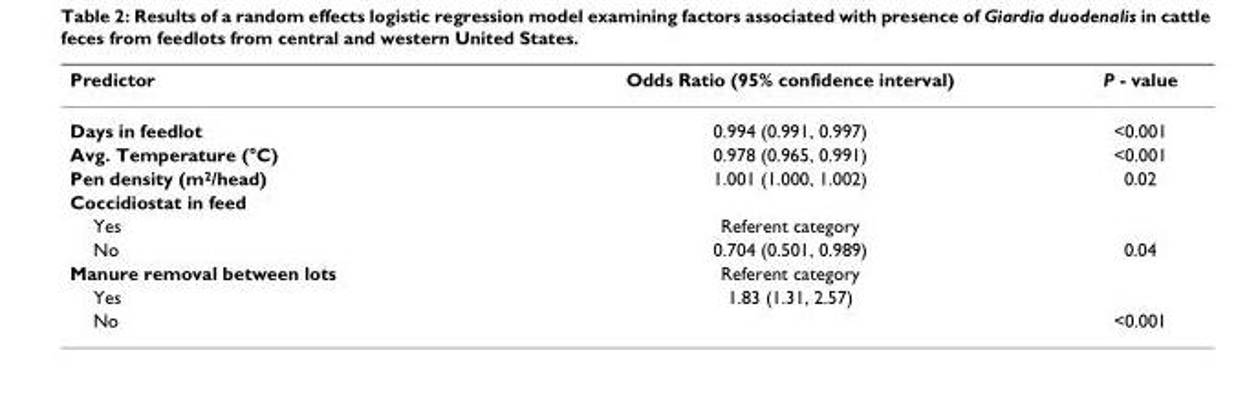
<table><thead><tr><td>Predictor</td><td>Odds Ratio (95% confidence interval)</td><td>P - value</td></tr></thead><tbody><tr><td>Days in feedlot</td><td>0.994 (0.991, 0.997)</td><td>&lt;0.001</td></tr><tr><td>Avg. Temperature (°C)</td><td>0.978 (0.965, 0.991)</td><td>&lt;0.001</td></tr><tr><td>Pen density (m<sup>2</sup>/head)</td><td>1.001 (1.000, 1.002)</td><td>0.02</td></tr><tr><td colspan="3">Coccidiostat in feed</td></tr><tr><td>Yes</td><td>Referent category</td><td></td></tr><tr><td>No</td><td>0.704 (0.501, 0.989)</td><td>0.04</td></tr><tr><td>Manure removal between lots</td><td>Referent category</td><td></td></tr><tr><td>Yes</td><td>1.83 (1.31, 2.57)</td><td></td></tr><tr><td>No</td><td></td><td>&lt;0.001</td></tr></tbody></table>